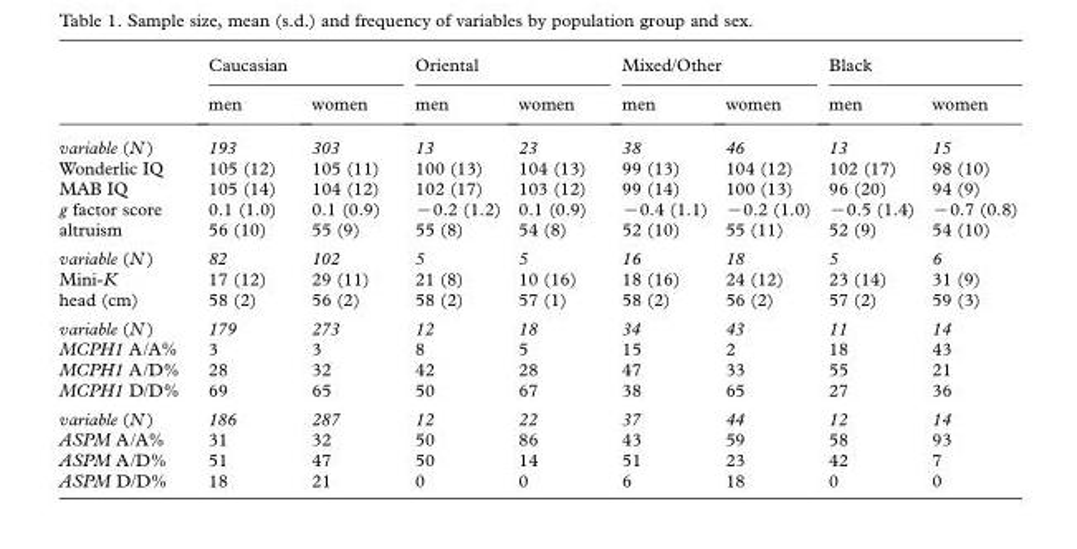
<table><thead><tr><td rowspan="2"></td><td colspan="2">Caucasian</td><td colspan="2">Oriental</td><td colspan="2">Mixed/Other</td><td colspan="2">Black</td></tr><tr><td>men</td><td>women</td><td>men</td><td>women</td><td>men</td><td>women</td><td>men</td><td>women</td></tr></thead><tbody><tr><td>variable (N )</td><td>193</td><td>303</td><td>13</td><td>23</td><td>38</td><td>46</td><td>13</td><td>15</td></tr><tr><td>Wonderlic IQ</td><td>105 (12)</td><td>105 (11)</td><td>100 (13)</td><td>104 (13)</td><td>99 (13)</td><td>104 (12)</td><td>102 (17)</td><td>98 (10)</td></tr><tr><td>MAB IQ</td><td>105 (14)</td><td>104 (12)</td><td>102 (17)</td><td>103 (12)</td><td>99 (14)</td><td>100 (13)</td><td>96 (20)</td><td>94 (9)</td></tr><tr><td>g factor score</td><td>0.1 (1.0)</td><td>0.1 (0.9)</td><td>−0.2 (1.2)</td><td>0.1 (0.9)</td><td>−0.4 (1.1)</td><td>−0.2 (1.0)</td><td>−0.5 (1.4)</td><td>−0.7 (0.8)</td></tr><tr><td>altruism</td><td>56 (10)</td><td>55 (9)</td><td>55 (8)</td><td>54 (8)</td><td>52 (10)</td><td>55 (11)</td><td>52 (9)</td><td>54 (10)</td></tr><tr><td>variable (N )</td><td>82</td><td>102</td><td>5</td><td>5</td><td>16</td><td>18</td><td>5</td><td>6</td></tr><tr><td>Mini-K</td><td>17 (12)</td><td>29 (11)</td><td>21 (8)</td><td>10 (16)</td><td>18 (16)</td><td>24 (12)</td><td>23 (14)</td><td>31 (9)</td></tr><tr><td>head (cm)</td><td>58 (2)</td><td>56 (2)</td><td>58 (2)</td><td>57 (1)</td><td>58 (2)</td><td>56 (2)</td><td>57 (2)</td><td>59 (3)</td></tr><tr><td>variable (N )</td><td>179</td><td>273</td><td>12</td><td>18</td><td>34</td><td>43</td><td>11</td><td>14</td></tr><tr><td>MCPH1 A/A%</td><td>3</td><td>3</td><td>8</td><td>5</td><td>15</td><td>2</td><td>18</td><td>43</td></tr><tr><td>MCPH1 A/D%</td><td>28</td><td>32</td><td>42</td><td>28</td><td>47</td><td>33</td><td>55</td><td>21</td></tr><tr><td>MCPH1 D/D%</td><td>69</td><td>65</td><td>50</td><td>67</td><td>38</td><td>65</td><td>27</td><td>36</td></tr><tr><td>variable (N )</td><td>186</td><td>287</td><td>12</td><td>22</td><td>37</td><td>44</td><td>12</td><td>14</td></tr><tr><td>ASPM A/A%</td><td>31</td><td>32</td><td>50</td><td>86</td><td>43</td><td>59</td><td>58</td><td>93</td></tr><tr><td>ASPM A/D%</td><td>51</td><td>47</td><td>50</td><td>14</td><td>51</td><td>23</td><td>42</td><td>7</td></tr><tr><td>ASPM D/D%</td><td>18</td><td>21</td><td>0</td><td>0</td><td>6</td><td>18</td><td>0</td><td>0</td></tr></tbody></table>